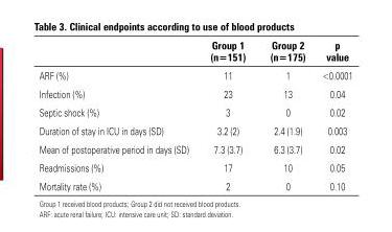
<table><thead><tr><td></td><td>Group 1 (n=151)</td><td>Group 2 (n=175)</td><td>p value</td></tr></thead><tbody><tr><td>ARF (%)</td><td>11</td><td>1</td><td>&lt;0.0001</td></tr><tr><td>Infection (%)</td><td>23</td><td>13</td><td>0.04</td></tr><tr><td>Septic shock (%)</td><td>3</td><td>0</td><td>0.02</td></tr><tr><td>Duration of stay in ICU in days (SD)</td><td>3.2 (2)</td><td>2.4 (1.9)</td><td>0.003</td></tr><tr><td>Mean of postoperative period in days (SD)</td><td>7.3 (3.7)</td><td>6.3 (3.7)</td><td>0.02</td></tr><tr><td>Readmissions (%)</td><td>17</td><td>10</td><td>0.05</td></tr><tr><td>Mortality rate (%)</td><td>2</td><td>0</td><td>0.10</td></tr></tbody></table>